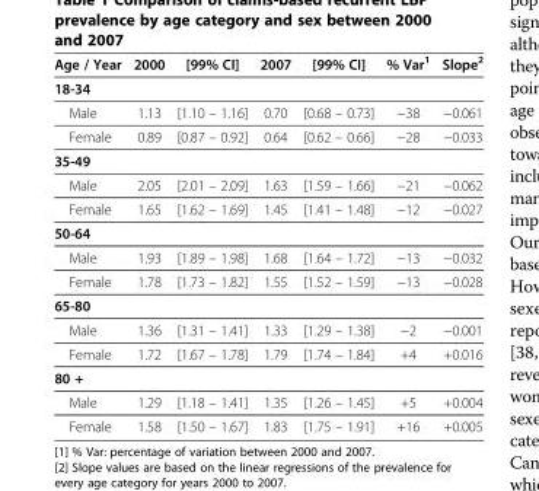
<table><thead><tr><td>Age / Year</td><td>2000</td><td>[99% CI]</td><td>2007</td><td>[99% CI]</td><td>% Var<sup>1</sup></td><td>Slope<sup>2</sup></td></tr></thead><tbody><tr><td colspan="7">18-34</td></tr><tr><td>Male</td><td>1.13</td><td>[1.10 – 1.16]</td><td>0.70</td><td>[0.68 – 0.73]</td><td>−38</td><td>−0.061</td></tr><tr><td>Female</td><td>0.89</td><td>[0.87 – 0.92]</td><td>0.64</td><td>[0.62 – 0.66]</td><td>−28</td><td>−0.033</td></tr><tr><td colspan="7">35-49</td></tr><tr><td>Male</td><td>2.05</td><td>[2.01 – 2.09]</td><td>1.63</td><td>[1.59 – 1.66]</td><td>−21</td><td>−0.062</td></tr><tr><td>Female</td><td>1.65</td><td>[1.62 – 1.69]</td><td>1.45</td><td>[1.41 – 1.48]</td><td>−12</td><td>−0.027</td></tr><tr><td colspan="7">50-64</td></tr><tr><td>Male</td><td>1.93</td><td>[1.89 – 1.98]</td><td>1.68</td><td>[1.64 – 1.72]</td><td>−13</td><td>−0.032</td></tr><tr><td>Female</td><td>1.78</td><td>[1.73 – 1.82]</td><td>1.55</td><td>[1.52 – 1.59]</td><td>−13</td><td>−0.028</td></tr><tr><td colspan="7">65-80</td></tr><tr><td>Male</td><td>1.36</td><td>[1.31 – 1.41]</td><td>1.33</td><td>[1.29 – 1.38]</td><td>−2</td><td>−0.001</td></tr><tr><td>Female</td><td>1.72</td><td>[1.67 – 1.78]</td><td>1.79</td><td>[1.74 – 1.84]</td><td>+4</td><td>+0.016</td></tr><tr><td colspan="7">80 +</td></tr><tr><td>Male</td><td>1.29</td><td>[1.18 – 1.41]</td><td>1.35</td><td>[1.26 – 1.45]</td><td>+5</td><td>+0.004</td></tr><tr><td>Female</td><td>1.58</td><td>[1.50 – 1.67]</td><td>1.83</td><td>[1.75 – 1.91]</td><td>+16</td><td>+0.005</td></tr></tbody></table>